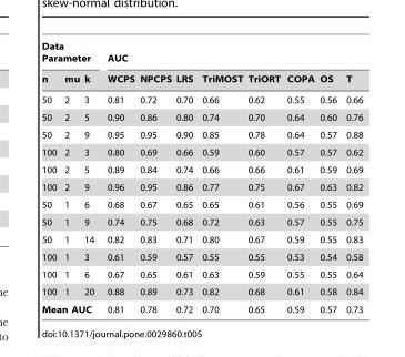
<table><thead><tr><td colspan="3">Data Parameter</td><td colspan="8">AUC</td></tr><tr><td>n</td><td>mu</td><td>k</td><td>WCPS</td><td>NPCPS</td><td>LRS</td><td>TriMOST</td><td>TriORT</td><td>COPA</td><td>OS</td><td>T</td></tr></thead><tbody><tr><td>50</td><td>2</td><td>3</td><td>0.81</td><td>0.72</td><td>0.70</td><td>0.66</td><td>0.62</td><td>0.55</td><td>0.56</td><td>0.66</td></tr><tr><td>50</td><td>2</td><td>5</td><td>0.90</td><td>0.86</td><td>0.80</td><td>0.74</td><td>0.70</td><td>0.64</td><td>0.60</td><td>0.76</td></tr><tr><td>50</td><td>2</td><td>9</td><td>0.95</td><td>0.95</td><td>0.90</td><td>0.85</td><td>0.78</td><td>0.64</td><td>0.57</td><td>0.88</td></tr><tr><td>100</td><td>2</td><td>3</td><td>0.80</td><td>0.69</td><td>0.66</td><td>0.59</td><td>0.60</td><td>0.57</td><td>0.57</td><td>0.62</td></tr><tr><td>100</td><td>2</td><td>5</td><td>0.89</td><td>0.84</td><td>0.74</td><td>0.66</td><td>0.66</td><td>0.61</td><td>0.59</td><td>0.69</td></tr><tr><td>100</td><td>2</td><td>9</td><td>0.96</td><td>0.95</td><td>0.86</td><td>0.77</td><td>0.75</td><td>0.67</td><td>0.63</td><td>0.82</td></tr><tr><td>50</td><td>1</td><td>6</td><td>0.68</td><td>0.67</td><td>0.65</td><td>0.65</td><td>0.61</td><td>0.56</td><td>0.55</td><td>0.69</td></tr><tr><td>50</td><td>1</td><td>9</td><td>0.74</td><td>0.75</td><td>0.68</td><td>0.72</td><td>0.63</td><td>0.57</td><td>0.55</td><td>0.75</td></tr><tr><td>50</td><td>1</td><td>14</td><td>0.82</td><td>0.83</td><td>0.71</td><td>0.80</td><td>0.67</td><td>0.59</td><td>0.55</td><td>0.83</td></tr><tr><td>100</td><td>1</td><td>3</td><td>0.61</td><td>0.59</td><td>0.57</td><td>0.55</td><td>0.55</td><td>0.53</td><td>0.54</td><td>0.58</td></tr><tr><td>100</td><td>1</td><td>6</td><td>0.67</td><td>0.65</td><td>0.61</td><td>0.63</td><td>0.59</td><td>0.55</td><td>0.55</td><td>0.64</td></tr><tr><td>100</td><td>1</td><td>20</td><td>0.88</td><td>0.89</td><td>0.73</td><td>0.82</td><td>0.68</td><td>0.61</td><td>0.58</td><td>0.84</td></tr><tr><td colspan="3">Mean AUC</td><td>0.81</td><td>0.78</td><td>0.72</td><td>0.70</td><td>0.65</td><td>0.59</td><td>0.57</td><td>0.73</td></tr></tbody></table>